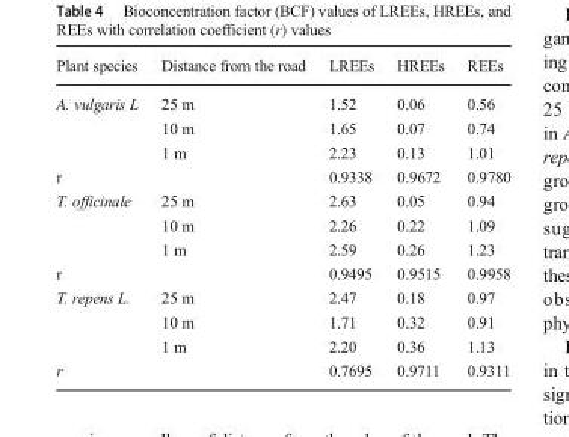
<table><thead><tr><td>Plant species</td><td>Distance from the road</td><td>LREEs</td><td>HREEs</td><td>REEs</td></tr></thead><tbody><tr><td rowspan="3">A. vulgaris L</td><td>25 m</td><td>1.52</td><td>0.06</td><td>0.56</td></tr><tr><td>10 m</td><td>1.65</td><td>0.07</td><td>0.74</td></tr><tr><td>1 m</td><td>2.23</td><td>0.13</td><td>1.01</td></tr><tr><td colspan="2">r</td><td>0.9338</td><td>0.9672</td><td>0.9780</td></tr><tr><td rowspan="3">T. officinale</td><td>25 m</td><td>2.63</td><td>0.05</td><td>0.94</td></tr><tr><td>10 m</td><td>2.26</td><td>0.22</td><td>1.09</td></tr><tr><td>1 m</td><td>2.59</td><td>0.26</td><td>1.23</td></tr><tr><td colspan="2">r</td><td>0.9495</td><td>0.9515</td><td>0.9958</td></tr><tr><td rowspan="3">T. repens L.</td><td>25 m</td><td>2.47</td><td>0.18</td><td>0.97</td></tr><tr><td>10 m</td><td>1.71</td><td>0.32</td><td>0.91</td></tr><tr><td>1 m</td><td>2.20</td><td>0.36</td><td>1.13</td></tr><tr><td colspan="2">r</td><td>0.7695</td><td>0.9711</td><td>0.9311</td></tr></tbody></table>